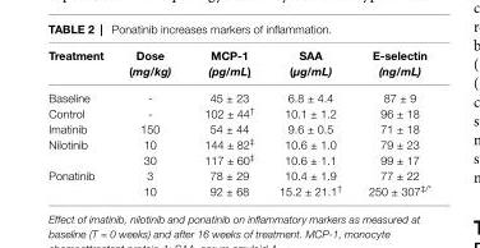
<table><thead><tr><td>Treatment</td><td>Dose (mg/kg)</td><td>McP-1 (pg/mL)</td><td>saa (µg/mL)</td><td>e-selectin (ng/mL)</td></tr></thead><tbody><tr><td>Baseline</td><td>-</td><td>45 ± 23</td><td>6.8 ± 4.4</td><td>87 ± 9</td></tr><tr><td>Control</td><td>-</td><td>102 ± 44<sup>†</sup></td><td>10.1 ± 1.2</td><td>96 ± 18</td></tr><tr><td>Imatinib</td><td>150</td><td>54 ± 44</td><td>9.6 ± 0.5</td><td>71 ± 18</td></tr><tr><td rowspan="2">Nilotinib</td><td>10</td><td>144 ± 82<sup>‡</sup></td><td>10.6 ± 1.0</td><td>79 ± 23</td></tr><tr><td>30</td><td>117 ± 60<sup>‡</sup></td><td>10.6 ± 1.1</td><td>99 ± 17</td></tr><tr><td rowspan="2">Ponatinib</td><td>3</td><td>78 ± 29</td><td>10.4 ± 1.9</td><td>77 ± 22</td></tr><tr><td>10</td><td>92 ± 68</td><td>15.2 ± 21.1<sup>†</sup></td><td>250 ± 307<sup>‡/*</sup></td></tr></tbody></table>